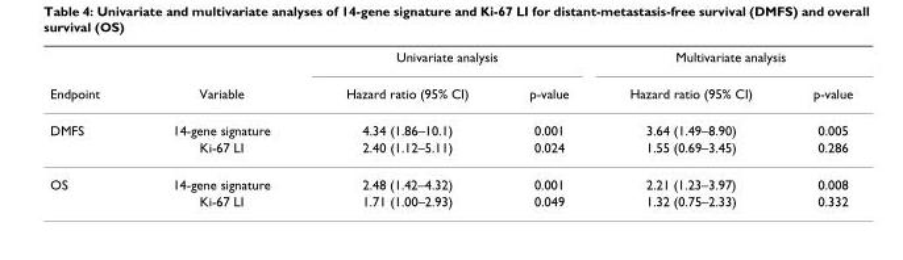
<table><thead><tr><td rowspan="2">Endpoint</td><td rowspan="2">Variable</td><td colspan="2">Univariate analysis</td><td colspan="2">Multivariate analysis</td></tr><tr><td>Hazard ratio (95% CI)</td><td>p-value</td><td>Hazard ratio (95% CI)</td><td>p-value</td></tr></thead><tbody><tr><td rowspan="2">DMFS</td><td>14-gene signature</td><td>4.34 (1.86–10.1)</td><td>0.001</td><td>3.64 (1.49–8.90)</td><td>0.005</td></tr><tr><td>Ki-67 LI</td><td>2.40 (1.12–5.11)</td><td>0.024</td><td>1.55 (0.69–3.45)</td><td>0.286</td></tr><tr><td rowspan="2">OS</td><td>14-gene signature</td><td>2.48 (1.42–4.32)</td><td>0.001</td><td>2.21 (1.23–3.97)</td><td>0.008</td></tr><tr><td>Ki-67 LI</td><td>1.71 (1.00–2.93)</td><td>0.049</td><td>1.32 (0.75–2.33)</td><td>0.332</td></tr></tbody></table>